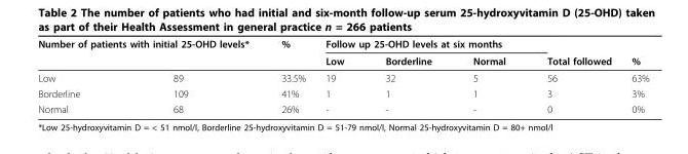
<table><thead><tr><td colspan="2">Number of patients with initial 25-OHD levels*</td><td rowspan="2">%</td><td colspan="3">Follow up 25-OHD levels at six months</td><td rowspan="2">Total followed</td><td rowspan="2">%</td></tr><tr><td></td><td></td><td>Low</td><td>Borderline</td><td>Normal</td></tr></thead><tbody><tr><td>Low</td><td>89</td><td>33.5%</td><td>19</td><td>32</td><td>5</td><td>56</td><td>63%</td></tr><tr><td>Borderline</td><td>109</td><td>41%</td><td>1</td><td>1</td><td>1</td><td>3</td><td>3%</td></tr><tr><td>Normal</td><td>68</td><td>26%</td><td>-</td><td>-</td><td>-</td><td>0</td><td>0%</td></tr></tbody></table>